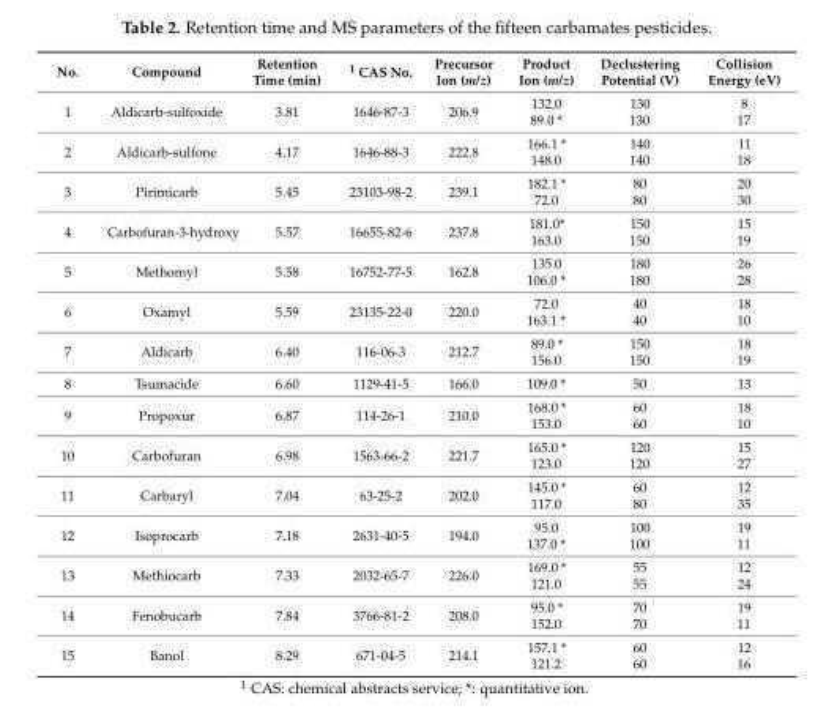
<table><thead><tr><td>No.</td><td>Compound</td><td>Retention Time (min)</td><td><sup>1</sup> CAS No.</td><td>Precursor Ion (m/z)</td><td>Product Ion (m/z)</td><td>Declustering Potential (V)</td><td>Collision Energy (eV)</td></tr></thead><tbody><tr><td>1</td><td>Aldicarb-sulfoxide</td><td>3.81</td><td>1646-87-3</td><td>206.9</td><td>132.0 89.0 *</td><td>130 130</td><td>8 17</td></tr><tr><td>2</td><td>Aldicarb-sulfone</td><td>4.17</td><td>1646-88-3</td><td>222.8</td><td>166.1 * 148.0</td><td>140 140</td><td>11 18</td></tr><tr><td>3</td><td>Pirimicarb</td><td>5.45</td><td>23103-98-2</td><td>239.1</td><td>182.1 * 72.0</td><td>80 80</td><td>20 30</td></tr><tr><td>4</td><td>Carbofuran-3-hydroxy</td><td>5.57</td><td>16655-82-6</td><td>237.8</td><td>181.0* 163.0</td><td>150 150</td><td>15 19</td></tr><tr><td>5</td><td>Methomyl</td><td>5.58</td><td>16752-77-5</td><td>162.8</td><td>135.0 106.0 *</td><td>180 180</td><td>26 28</td></tr><tr><td>6</td><td>Oxamyl</td><td>5.59</td><td>23135-22-0</td><td>220.0</td><td>72.0 163.1 *</td><td>40 40</td><td>18 10</td></tr><tr><td>7</td><td>Aldicarb</td><td>6.40</td><td>116-06-3</td><td>212.7</td><td>89.0 * 156.0</td><td>150 150</td><td>18 19</td></tr><tr><td>8</td><td>Tsumacide</td><td>6.60</td><td>1129-41-5</td><td>166.0</td><td>109.0 *</td><td>50</td><td>13</td></tr><tr><td>9</td><td>Propoxur</td><td>6.87</td><td>114-26-1</td><td>210.0</td><td>168.0 * 153.0</td><td>60 60</td><td>18 10</td></tr><tr><td>10</td><td>Carbofuran</td><td>6.98</td><td>1563-66-2</td><td>221.7</td><td>165.0 * 123.0</td><td>120 120</td><td>15 27</td></tr><tr><td>11</td><td>Carbaryl</td><td>7.04</td><td>63-25-2</td><td>202.0</td><td>145.0 * 117.0</td><td>60 80</td><td>12 35</td></tr><tr><td>12</td><td>Isoprocarb</td><td>7.18</td><td>2631-40-5</td><td>194.0</td><td>95.0 137.0 *</td><td>100 100</td><td>19 11</td></tr><tr><td>13</td><td>Methiocarb</td><td>7.33</td><td>2032-65-7</td><td>226.0</td><td>169.0 * 121.0</td><td>55 55</td><td>12 24</td></tr><tr><td>14</td><td>Fenobucarb</td><td>7.84</td><td>3766-81-2</td><td>208.0</td><td>95.0 * 152.0</td><td>70 70</td><td>19 11</td></tr><tr><td>15</td><td>Banol</td><td>8.29</td><td>671-04-5</td><td>214.1</td><td>157.1 * 121.2</td><td>60 60</td><td>12 16</td></tr></tbody></table>